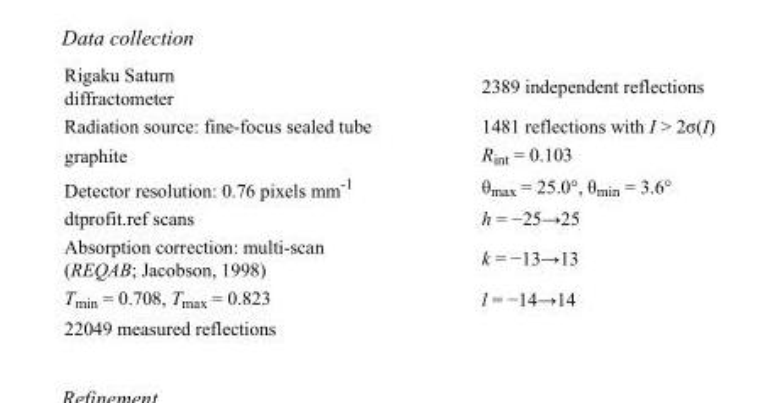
<table><tbody><tr><td>Rigaku Saturn diffractometer</td><td>2389 independent reflections</td></tr><tr><td>Radiation source: fine-focus sealed tube</td><td>1481 reflections with I &gt; 2σ(I)</td></tr><tr><td>graphite</td><td>R<sub>int</sub> = 0.103</td></tr><tr><td>Detector resolution: 0.76 pixels mm<sup>-1</sup></td><td>θ<sub>max</sub> = 25.0°, θ<sub>min</sub> = 3.6°</td></tr><tr><td>dtprofit.ref scans</td><td>h = −25→25</td></tr><tr><td>Absorption correction: multi-scan (REQAB; Jacobson, 1998)</td><td>k = −13→13</td></tr><tr><td>T<sub>min</sub> = 0.708, T<sub>max</sub> = 0.823</td><td>l = −14→14</td></tr><tr><td>22049 measured reflections</td><td></td></tr></tbody></table>